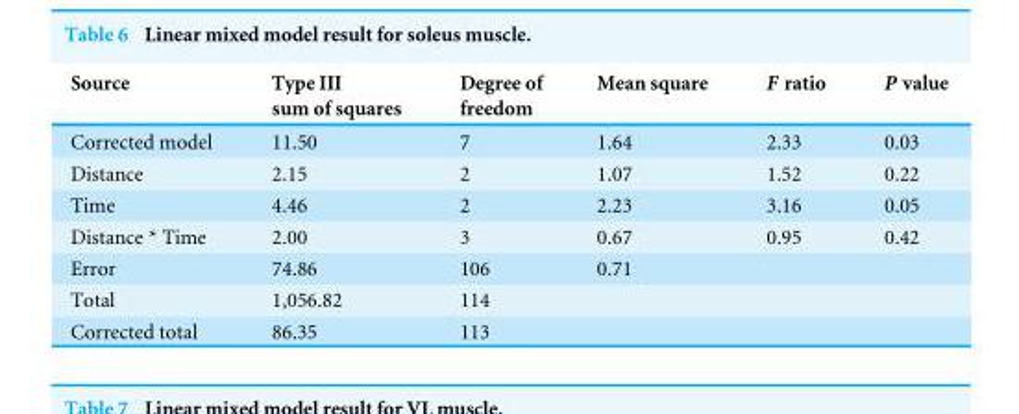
<table><thead><tr><td>Source</td><td>Type III sum of squares</td><td>Degree of freedom</td><td>Mean square</td><td>F ratio</td><td>P value</td></tr></thead><tbody><tr><td>Corrected model</td><td>11.50</td><td>7</td><td>1.64</td><td>2.33</td><td>0.03</td></tr><tr><td>Distance</td><td>2.15</td><td>2</td><td>1.07</td><td>1.52</td><td>0.22</td></tr><tr><td>Time</td><td>4.46</td><td>2</td><td>2.23</td><td>3.16</td><td>0.05</td></tr><tr><td>Distance * Time</td><td>2.00</td><td>3</td><td>0.67</td><td>0.95</td><td>0.42</td></tr><tr><td>Error</td><td>74.86</td><td>106</td><td>0.71</td><td></td><td></td></tr><tr><td>Total</td><td>1,056.82</td><td>114</td><td></td><td></td><td></td></tr><tr><td>Corrected total</td><td>86.35</td><td>113</td><td></td><td></td><td></td></tr></tbody></table>